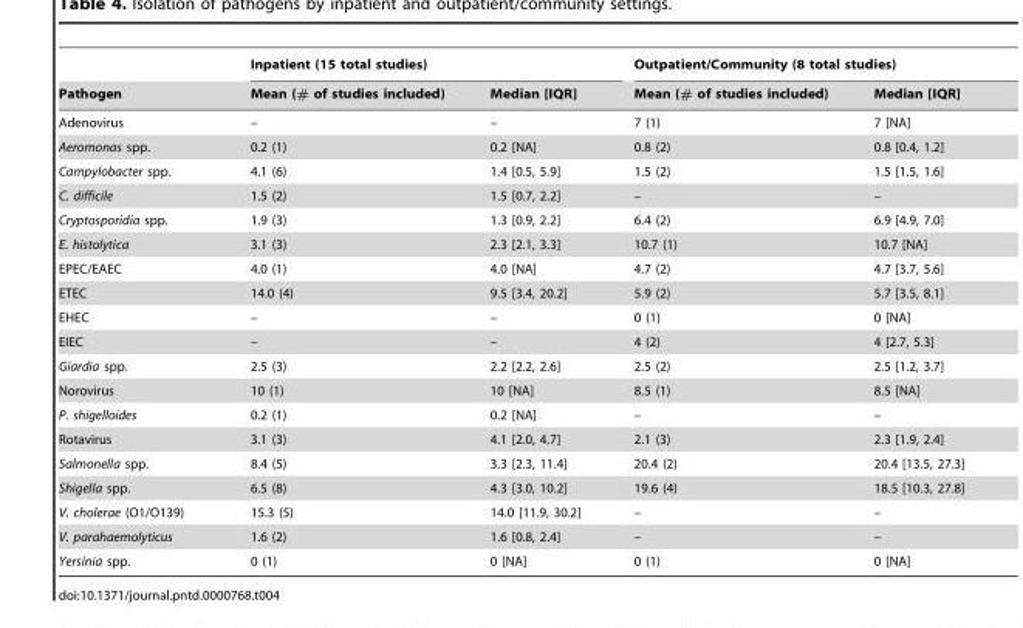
<table><thead><tr><td rowspan="2">Pathogen</td><td colspan="2">Inpatient (15 total studies)</td><td colspan="2">Outpatient/Community (8 total studies)</td></tr><tr><td>Mean (# of studies included)</td><td>Median [IQR]</td><td>Mean (# of studies included)</td><td>Median [IQR]</td></tr></thead><tbody><tr><td>Adenovirus</td><td>–</td><td>–</td><td>7 (1)</td><td>7 [NA]</td></tr><tr><td>Aeromonas spp.</td><td>0.2 (1)</td><td>0.2 [NA]</td><td>0.8 (2)</td><td>0.8 [0.4, 1.2]</td></tr><tr><td>Campylobacter spp.</td><td>4.1 (6)</td><td>1.4 [0.5, 5.9]</td><td>1.5 (2)</td><td>1.5 [1.5, 1.6]</td></tr><tr><td>C. difficile</td><td>1.5 (2)</td><td>1.5 [0.7, 2.2]</td><td>–</td><td>–</td></tr><tr><td>Cryptosporidia spp.</td><td>1.9 (3)</td><td>1.3 [0.9, 2.2]</td><td>6.4 (2)</td><td>6.9 [4.9, 7.0]</td></tr><tr><td>E. histolytica</td><td>3.1 (3)</td><td>2.3 [2.1, 3.3]</td><td>10.7 (1)</td><td>10.7 [NA]</td></tr><tr><td>EPEC/EAEC</td><td>4.0 (1)</td><td>4.0 [NA]</td><td>4.7 (2)</td><td>4.7 [3.7, 5.6]</td></tr><tr><td>ETEC</td><td>14.0 (4)</td><td>9.5 [3.4, 20.2]</td><td>5.9 (2)</td><td>5.7 [3.5, 8.1]</td></tr><tr><td>EHEC</td><td>–</td><td>–</td><td>0 (1)</td><td>0 [NA]</td></tr><tr><td>EIEC</td><td>–</td><td>–</td><td>4 (2)</td><td>4 [2.7, 5.3]</td></tr><tr><td>Giardia spp.</td><td>2.5 (3)</td><td>2.2 [2.2, 2.6]</td><td>2.5 (2)</td><td>2.5 [1.2, 3.7]</td></tr><tr><td>Norovirus</td><td>10 (1)</td><td>10 [NA]</td><td>8.5 (1)</td><td>8.5 [NA]</td></tr><tr><td>P. shigelloides</td><td>0.2 (1)</td><td>0.2 [NA]</td><td>–</td><td>–</td></tr><tr><td>Rotavirus</td><td>3.1 (3)</td><td>4.1 [2.0, 4.7]</td><td>2.1 (3)</td><td>2.3 [1.9, 2.4]</td></tr><tr><td>Salmonella spp.</td><td>8.4 (5)</td><td>3.3 [2.3, 11.4]</td><td>20.4 (2)</td><td>20.4 [13.5, 27.3]</td></tr><tr><td>Shigella spp.</td><td>6.5 (8)</td><td>4.3 [3.0, 10.2]</td><td>19.6 (4)</td><td>18.5 [10.3, 27.8]</td></tr><tr><td>V. cholerae (O1/O139)</td><td>15.3 (5)</td><td>14.0 [11.9, 30.2]</td><td>–</td><td>–</td></tr><tr><td>V. parahaemolyticus</td><td>1.6 (2)</td><td>1.6 [0.8, 2.4]</td><td>–</td><td>–</td></tr><tr><td>Yersinia spp.</td><td>0 (1)</td><td>0 [NA]</td><td>0 (1)</td><td>0 [NA]</td></tr></tbody></table>